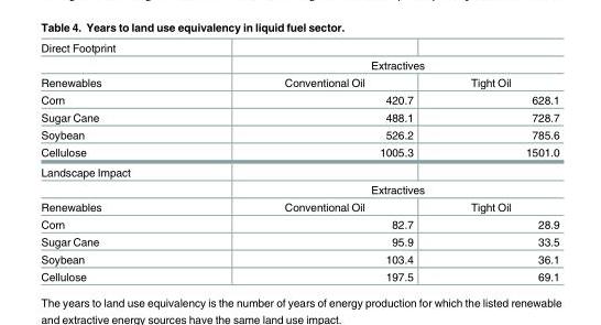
<table><tbody><tr><td colspan="3">Direct Footprint</td></tr><tr><td></td><td colspan="2">Extractives</td></tr><tr><td>Renewables</td><td>Conventional Oil</td><td>Tight Oil</td></tr><tr><td>Corn</td><td>420.7</td><td>628.1</td></tr><tr><td>Sugar Cane</td><td>488.1</td><td>728.7</td></tr><tr><td>Soybean</td><td>526.2</td><td>785.6</td></tr><tr><td>Cellulose</td><td>1005.3</td><td>1501.0</td></tr><tr><td colspan="3">Landscape Impact</td></tr><tr><td></td><td colspan="2">Extractives</td></tr><tr><td>Renewables</td><td>Conventional Oil</td><td>Tight Oil</td></tr><tr><td>Corn</td><td>82.7</td><td>28.9</td></tr><tr><td>Sugar Cane</td><td>95.9</td><td>33.5</td></tr><tr><td>Soybean</td><td>103.4</td><td>36.1</td></tr><tr><td>Cellulose</td><td>197.5</td><td>69.1</td></tr></tbody></table>